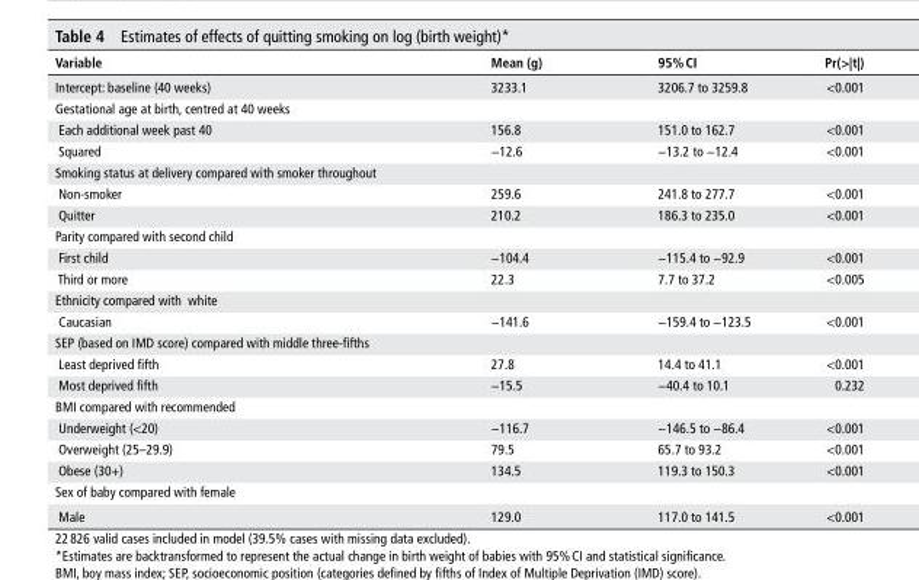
<table><thead><tr><td>Variable</td><td>Mean (g)</td><td>95% cI</td><td>Pr(&gt;|t|)</td></tr></thead><tbody><tr><td>Intercept: baseline (40 weeks)</td><td>3233.1</td><td>3206.7 to 3259.8</td><td>&lt;0.001</td></tr><tr><td colspan="4">Gestational age at birth, centred at 40 weeks</td></tr><tr><td>Each additional week past 40</td><td>156.8</td><td>151.0 to 162.7</td><td>&lt;0.001</td></tr><tr><td>Squared</td><td>−12.6</td><td>−13.2 to −12.4</td><td>&lt;0.001</td></tr><tr><td colspan="4">Smoking status at delivery compared with smoker throughout</td></tr><tr><td>Non-smoker</td><td>259.6</td><td>241.8 to 277.7</td><td>&lt;0.001</td></tr><tr><td>Quitter</td><td>210.2</td><td>186.3 to 235.0</td><td>&lt;0.001</td></tr><tr><td colspan="4">Parity compared with second child</td></tr><tr><td>First child</td><td>−104.4</td><td>−115.4 to −92.9</td><td>&lt;0.001</td></tr><tr><td>Third or more</td><td>22.3</td><td>7.7 to 37.2</td><td>&lt;0.005</td></tr><tr><td colspan="4">Ethnicity compared with white</td></tr><tr><td>Caucasian</td><td>−141.6</td><td>−159.4 to −123.5</td><td>&lt;0.001</td></tr><tr><td colspan="4">SEP (based on IMD score) compared with middle three-fifths</td></tr><tr><td>Least deprived fifth</td><td>27.8</td><td>14.4 to 41.1</td><td>&lt;0.001</td></tr><tr><td>Most deprived fifth</td><td>−15.5</td><td>−40.4 to 10.1</td><td>0.232</td></tr><tr><td colspan="4">BMI compared with recommended</td></tr><tr><td>Underweight (&lt;20)</td><td>−116.7</td><td>−146.5 to −86.4</td><td>&lt;0.001</td></tr><tr><td>Overweight (25–29.9)</td><td>79.5</td><td>65.7 to 93.2</td><td>&lt;0.001</td></tr><tr><td>Obese (30+)</td><td>134.5</td><td>119.3 to 150.3</td><td>&lt;0.001</td></tr><tr><td colspan="4">Sex of baby compared with female</td></tr><tr><td>Male</td><td>129.0</td><td>117.0 to 141.5</td><td>&lt;0.001</td></tr></tbody></table>